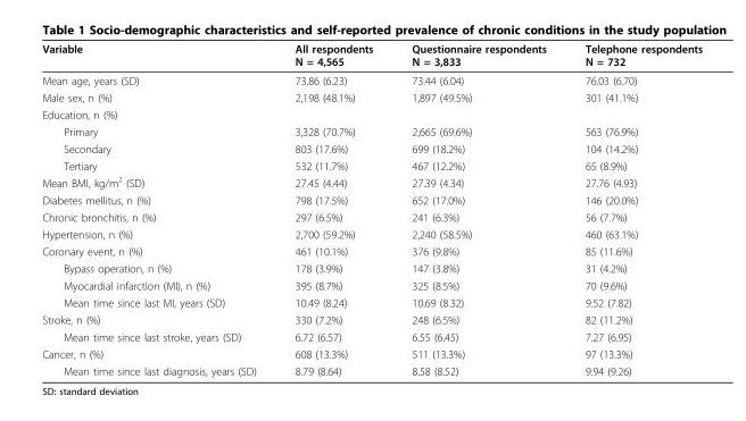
<table><thead><tr><td>Variable</td><td>All respondents N = 4,565</td><td>Questionnaire respondents N = 3,833</td><td>Telephone respondents N = 732</td></tr></thead><tbody><tr><td>Mean age, years (SD)</td><td>73.86 (6.23)</td><td>73.44 (6.04)</td><td>76.03 (6.70)</td></tr><tr><td>Male sex, n (%)</td><td>2,198 (48.1%)</td><td>1,897 (49.5%)</td><td>301 (41.1%)</td></tr><tr><td colspan="4">Education, n (%)</td></tr><tr><td>Primary</td><td>3,328 (70.7%)</td><td>2,665 (69.6%)</td><td>563 (76.9%)</td></tr><tr><td>Secondary</td><td>803 (17.6%)</td><td>699 (18.2%)</td><td>104 (14.2%)</td></tr><tr><td>Tertiary</td><td>532 (11.7%)</td><td>467 (12.2%)</td><td>65 (8.9%)</td></tr><tr><td>Mean BMI, kg/m<sup>2</sup> (SD)</td><td>27.45 (4.44)</td><td>27.39 (4.34)</td><td>27.76 (4.93)</td></tr><tr><td>Diabetes mellitus, n (%)</td><td>798 (17.5%)</td><td>652 (17.0%)</td><td>146 (20.0%)</td></tr><tr><td>Chronic bronchitis, n (%)</td><td>297 (6.5%)</td><td>241 (6.3%)</td><td>56 (7.7%)</td></tr><tr><td>Hypertension, n (%)</td><td>2,700 (59.2%)</td><td>2,240 (58.5%)</td><td>460 (63.1%)</td></tr><tr><td>Coronary event, n (%)</td><td>461 (10.1%)</td><td>376 (9.8%)</td><td>85 (11.6%)</td></tr><tr><td>Bypass operation, n (%)</td><td>178 (3.9%)</td><td>147 (3.8%)</td><td>31 (4.2%)</td></tr><tr><td>Myocardial infarction (MI), n (%)</td><td>395 (8.7%)</td><td>325 (8.5%)</td><td>70 (9.6%)</td></tr><tr><td>Mean time since last MI, years (SD)</td><td>10.49 (8.24)</td><td>10.69 (8.32)</td><td>9.52 (7.82)</td></tr><tr><td>Stroke, n (%)</td><td>330 (7.2%)</td><td>248 (6.5%)</td><td>82 (11.2%)</td></tr><tr><td>Mean time since last stroke, years (SD)</td><td>6.72 (6.57)</td><td>6.55 (6.45)</td><td>7.27 (6.95)</td></tr><tr><td>Cancer, n (%)</td><td>608 (13.3%)</td><td>511 (13.3%)</td><td>97 (13.3%)</td></tr><tr><td>Mean time since last diagnosis, years (SD)</td><td>8.79 (8.64)</td><td>8.58 (8.52)</td><td>9.94 (9.26)</td></tr></tbody></table>